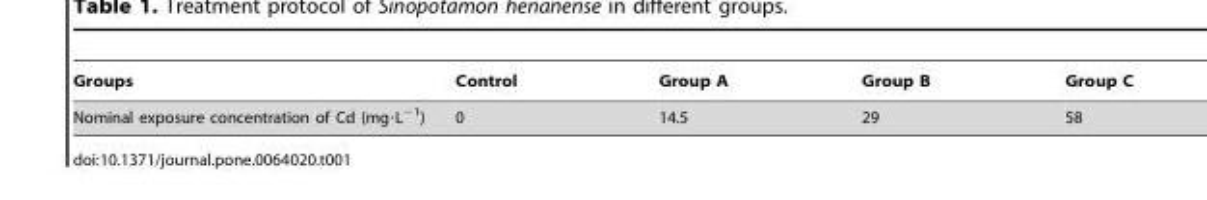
<table><thead><tr><td>Groups</td><td>Control</td><td>Group A</td><td>Group B</td><td>Group C</td></tr></thead><tbody><tr><td>Nominal exposure concentration of Cd (mg·L<sup>−1</sup>)</td><td>0</td><td>14.5</td><td>29</td><td>58</td></tr></tbody></table>